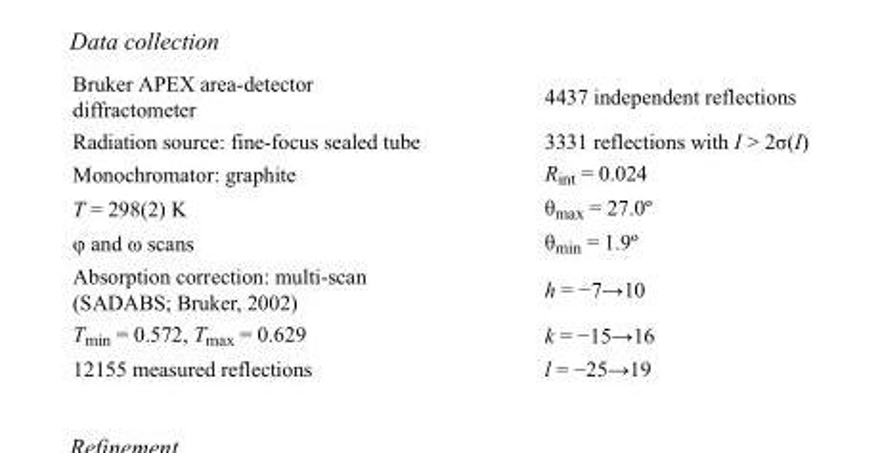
<table><tbody><tr><td>Bruker APEX area-detector diffractometer</td><td>4437 independent reflections</td></tr><tr><td>Radiation source: fine-focus sealed tube</td><td>3331 reflections with I &gt; 2σ(I)</td></tr><tr><td>Monochromator: graphite</td><td>R<sub>int</sub> = 0.024</td></tr><tr><td>T = 298(2) K</td><td>θ<sub>max</sub> = 27.0º</td></tr><tr><td>φ and ω scans</td><td>θ<sub>min</sub> = 1.9º</td></tr><tr><td>Absorption correction: multi-scan (SADABS; Bruker, 2002)</td><td>h = −7→10</td></tr><tr><td>T<sub>min</sub> = 0.572, T<sub>max</sub> = 0.629</td><td>k = −15→16</td></tr><tr><td>12155 measured reflections</td><td>l = −25→19</td></tr></tbody></table>